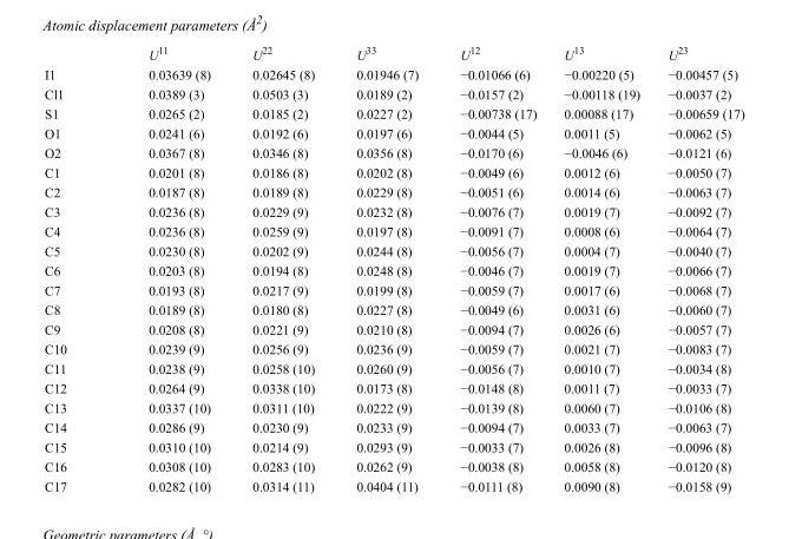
<table><thead><tr><td></td><td>U<sup>11</sup></td><td>U<sup>22</sup></td><td>U<sup>33</sup></td><td>U<sup>12</sup></td><td>U<sup>13</sup></td><td>U<sup>23</sup></td></tr></thead><tbody><tr><td>I1</td><td>0.03639 (8)</td><td>0.02645 (8)</td><td>0.01946 (7)</td><td>−0.01066 (6)</td><td>−0.00220 (5)</td><td>−0.00457 (5)</td></tr><tr><td>Cl1</td><td>0.0389 (3)</td><td>0.0503 (3)</td><td>0.0189 (2)</td><td>−0.0157 (2)</td><td>−0.00118 (19)</td><td>−0.0037 (2)</td></tr><tr><td>S1</td><td>0.0265 (2)</td><td>0.0185 (2)</td><td>0.0227 (2)</td><td>−0.00738 (17)</td><td>0.00088 (17)</td><td>−0.00659 (17)</td></tr><tr><td>O1</td><td>0.0241 (6)</td><td>0.0192 (6)</td><td>0.0197 (6)</td><td>−0.0044 (5)</td><td>0.0011 (5)</td><td>−0.0062 (5)</td></tr><tr><td>O2</td><td>0.0367 (8)</td><td>0.0346 (8)</td><td>0.0356 (8)</td><td>−0.0170 (6)</td><td>−0.0046 (6)</td><td>−0.0121 (6)</td></tr><tr><td>C1</td><td>0.0201 (8)</td><td>0.0186 (8)</td><td>0.0202 (8)</td><td>−0.0049 (6)</td><td>0.0012 (6)</td><td>−0.0050 (7)</td></tr><tr><td>C2</td><td>0.0187 (8)</td><td>0.0189 (8)</td><td>0.0229 (8)</td><td>−0.0051 (6)</td><td>0.0014 (6)</td><td>−0.0063 (7)</td></tr><tr><td>C3</td><td>0.0236 (8)</td><td>0.0229 (9)</td><td>0.0232 (8)</td><td>−0.0076 (7)</td><td>0.0019 (7)</td><td>−0.0092 (7)</td></tr><tr><td>C4</td><td>0.0236 (8)</td><td>0.0259 (9)</td><td>0.0197 (8)</td><td>−0.0091 (7)</td><td>0.0008 (6)</td><td>−0.0064 (7)</td></tr><tr><td>C5</td><td>0.0230 (8)</td><td>0.0202 (9)</td><td>0.0244 (8)</td><td>−0.0056 (7)</td><td>0.0004 (7)</td><td>−0.0040 (7)</td></tr><tr><td>C6</td><td>0.0203 (8)</td><td>0.0194 (8)</td><td>0.0248 (8)</td><td>−0.0046 (7)</td><td>0.0019 (7)</td><td>−0.0066 (7)</td></tr><tr><td>C7</td><td>0.0193 (8)</td><td>0.0217 (9)</td><td>0.0199 (8)</td><td>−0.0059 (7)</td><td>0.0017 (6)</td><td>−0.0068 (7)</td></tr><tr><td>C8</td><td>0.0189 (8)</td><td>0.0180 (8)</td><td>0.0227 (8)</td><td>−0.0049 (6)</td><td>0.0031 (6)</td><td>−0.0060 (7)</td></tr><tr><td>C9</td><td>0.0208 (8)</td><td>0.0221 (9)</td><td>0.0210 (8)</td><td>−0.0094 (7)</td><td>0.0026 (6)</td><td>−0.0057 (7)</td></tr><tr><td>C10</td><td>0.0239 (9)</td><td>0.0256 (9)</td><td>0.0236 (9)</td><td>−0.0059 (7)</td><td>0.0021 (7)</td><td>−0.0083 (7)</td></tr><tr><td>C11</td><td>0.0238 (9)</td><td>0.0258 (10)</td><td>0.0260 (9)</td><td>−0.0056 (7)</td><td>0.0010 (7)</td><td>−0.0034 (8)</td></tr><tr><td>C12</td><td>0.0264 (9)</td><td>0.0338 (10)</td><td>0.0173 (8)</td><td>−0.0148 (8)</td><td>0.0011 (7)</td><td>−0.0033 (7)</td></tr><tr><td>C13</td><td>0.0337 (10)</td><td>0.0311 (10)</td><td>0.0222 (9)</td><td>−0.0139 (8)</td><td>0.0060 (7)</td><td>−0.0106 (8)</td></tr><tr><td>C14</td><td>0.0286 (9)</td><td>0.0230 (9)</td><td>0.0233 (9)</td><td>−0.0094 (7)</td><td>0.0033 (7)</td><td>−0.0063 (7)</td></tr><tr><td>C15</td><td>0.0310 (10)</td><td>0.0214 (9)</td><td>0.0293 (9)</td><td>−0.0033 (7)</td><td>0.0026 (8)</td><td>−0.0096 (8)</td></tr><tr><td>C16</td><td>0.0308 (10)</td><td>0.0283 (10)</td><td>0.0262 (9)</td><td>−0.0038 (8)</td><td>0.0058 (8)</td><td>−0.0120 (8)</td></tr><tr><td>C17</td><td>0.0282 (10)</td><td>0.0314 (11)</td><td>0.0404 (11)</td><td>−0.0111 (8)</td><td>0.0090 (8)</td><td>−0.0158 (9)</td></tr></tbody></table>